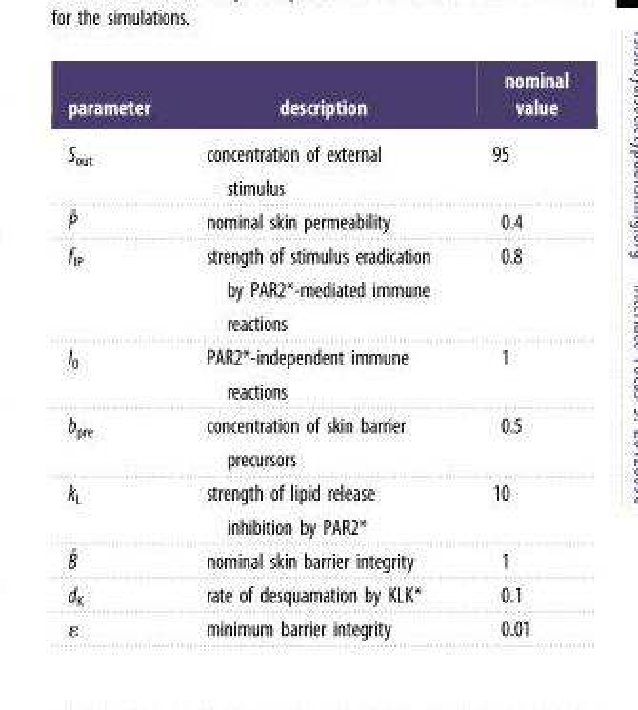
<table><thead><tr><td>parameter</td><td>description</td><td>nominal value</td></tr></thead><tbody><tr><td>S<sub>out</sub></td><td>concentration of external stimulus</td><td>95</td></tr><tr><td>P˜</td><td>nominal skin permeability</td><td>0.4</td></tr><tr><td>f<sub>IP</sub></td><td>strength of stimulus eradication by PAR2*-mediated immune reactions</td><td>0.8</td></tr><tr><td>I<sub>0</sub></td><td>PAR2*-independent immune reactions</td><td>1</td></tr><tr><td>b<sub>pre</sub></td><td>concentration of skin barrier precursors</td><td>0.5</td></tr><tr><td>k<sub>L</sub></td><td>strength of lipid release inhibition by PAR2*</td><td>10</td></tr><tr><td>B˜</td><td>nominal skin barrier integrity</td><td>1</td></tr><tr><td rowspan="2">dK 1</td><td>rate of desquamation by KLK*</td><td>0.1</td></tr><tr><td>minimum barrier integrity</td><td>0.01</td></tr></tbody></table>